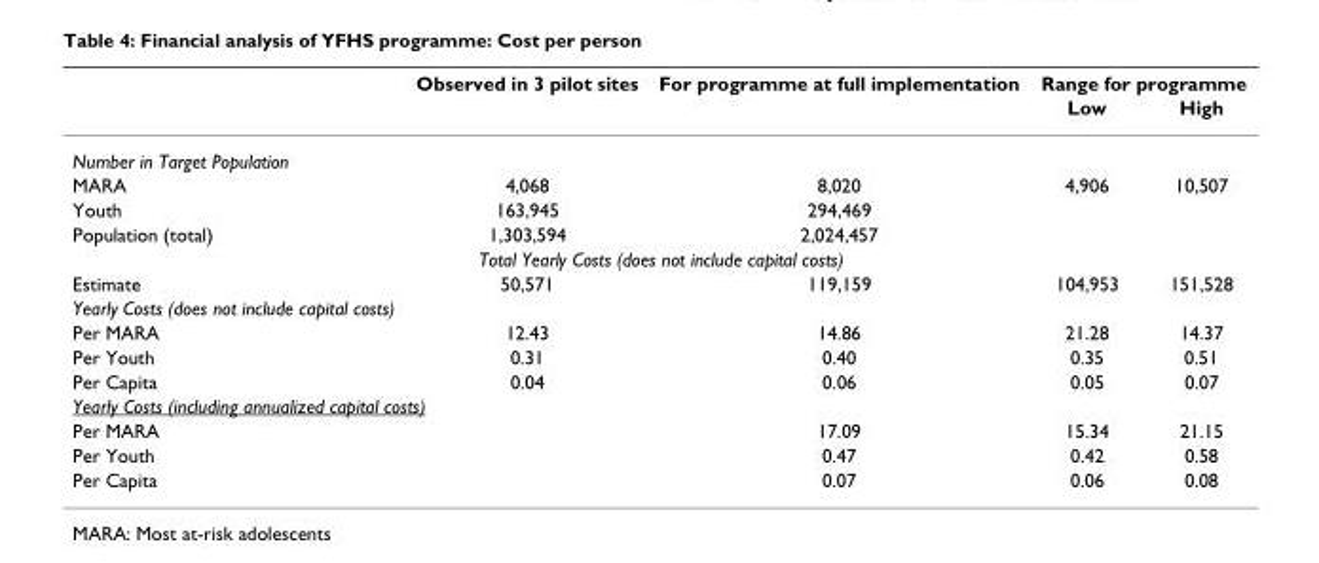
<table><thead><tr><td rowspan="2"></td><td rowspan="2">Observed in 3 pilot sites</td><td rowspan="2">For programme at full implementation</td><td colspan="2">Range for programme</td></tr><tr><td>Low</td><td>High</td></tr></thead><tbody><tr><td colspan="5">Number in Target Population</td></tr><tr><td>MARA</td><td>4,068</td><td>8,020</td><td>4,906</td><td>10,507</td></tr><tr><td>Youth</td><td>163,945</td><td>294,469</td><td></td><td></td></tr><tr><td>Population (total)</td><td>1,303,594</td><td>2,024,457</td><td></td><td></td></tr><tr><td colspan="5">Total Yearly Costs (does not include capital costs)</td></tr><tr><td>Estimate</td><td>50,571</td><td>119,159</td><td>104,953</td><td>151,528</td></tr><tr><td colspan="5">Yearly Costs (does not include capital costs)</td></tr><tr><td>Per MARA</td><td>12.43</td><td>14.86</td><td>21.28</td><td>14.37</td></tr><tr><td>Per Youth</td><td>0.31</td><td>0.40</td><td>0.35</td><td>0.51</td></tr><tr><td>Per Capita</td><td>0.04</td><td>0.06</td><td>0.05</td><td>0.07</td></tr><tr><td colspan="5">Yearly Costs (including annualized capital costs)</td></tr><tr><td>Per MARA</td><td></td><td>17.09</td><td>15.34</td><td>21.15</td></tr><tr><td>Per Youth</td><td></td><td>0.47</td><td>0.42</td><td>0.58</td></tr><tr><td>Per Capita</td><td></td><td>0.07</td><td>0.06</td><td>0.08</td></tr></tbody></table>